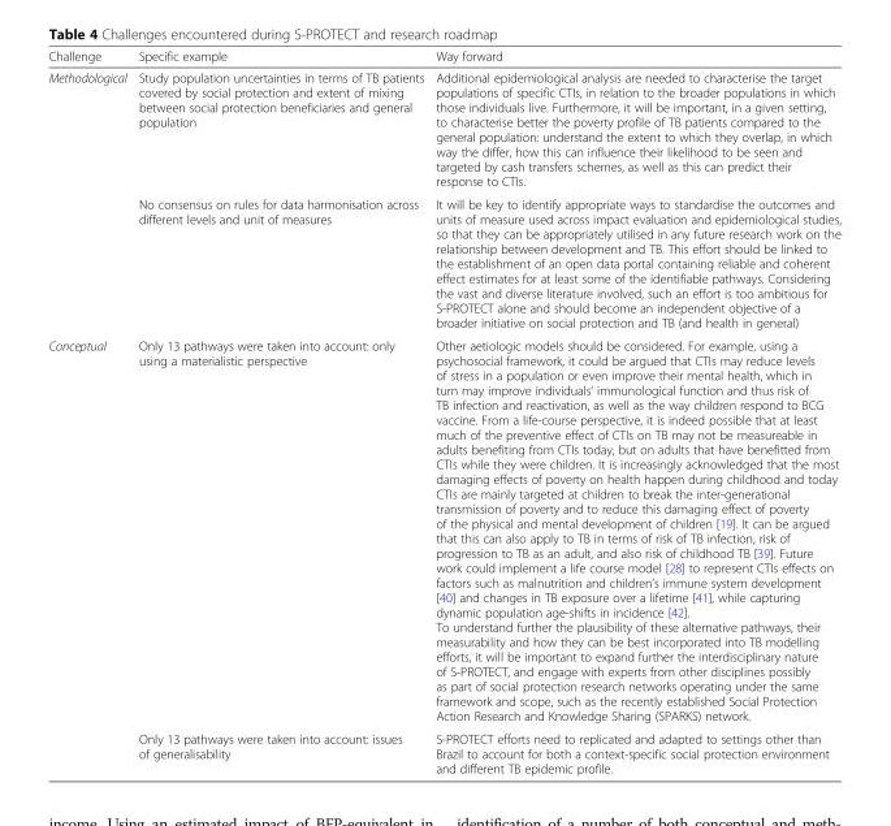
<table><thead><tr><td>Challenge</td><td>Specific example</td><td>Way forward</td></tr></thead><tbody><tr><td rowspan="2">Methodological</td><td>Study population uncertainties in terms of TB patients covered by social protection and extent of mixing between social protection beneficiaries and general population</td><td>Additional epidemiological analysis are needed to characterise the target populations of specific CTIs, in relation to the broader populations in which those individuals live. Furthermore, it will be important, in a given setting, to characterise better the poverty profile of TB patients compared to the general population: understand the extent to which they overlap, in which way the differ, how this can influence their likelihood to be seen and targeted by cash transfers schemes, as well as this can predict their response to CTIs.</td></tr><tr><td>No consensus on rules for data harmonisation across different levels and unit of measures</td><td>It will be key to identify appropriate ways to standardise the outcomes and units of measure used across impact evaluation and epidemiological studies, so that they can be appropriately utilised in any future research work on the relationship between development and TB. This effort should be linked to the establishment of an open data portal containing reliable and coherent effect estimates for at least some of the identifiable pathways. Considering the vast and diverse literature involved, such an effort is too ambitious for S-PROTECT alone and should become an independent objective of a broader initiative on social protection and TB (and health in general)</td></tr><tr><td rowspan="2">Conceptual</td><td>Only 13 pathways were taken into account: only using a materialistic perspective</td><td>Other aetiologic models should be considered. For example, using a psychosocial framework, it could be argued that CTIs may reduce levels of stress in a population or even improve their mental health, which in turn may improve individuals’ immunological function and thus risk of TB infection and reactivation, as well as the way children respond to BCG vaccine. From a life-course perspective, it is indeed possible that at least much of the preventive effect of CTIs on TB may not be measureable in adults benefiting from CTIs today, but on adults that have benefitted from CTIs while they were children. It is increasingly acknowledged that the most damaging effects of poverty on health happen during childhood and today CTIs are mainly targeted at children to break the inter-generational transmission of poverty and to reduce this damaging effect of poverty of the physical and mental development of children [19]. It can be argued that this can also apply to TB in terms of risk of TB infection, risk of progression to TB as an adult, and also risk of childhood TB [39]. Future work could implement a life course model [28] to represent CTIs effects on factors such as malnutrition and children’s immune system development [40] and changes in TB exposure over a lifetime [41], while capturing dynamic population age-shifts in incidence [42]. To understand further the plausibility of these alternative pathways, their measurability and how they can be best incorporated into TB modelling efforts, it will be important to expand further the interdisciplinary nature of S-PROTECT, and engage with experts from other disciplines possibly as part of social protection research networks operating under the same framework and scope, such as the recently established Social Protection Action Research and Knowledge Sharing (SPARKS) network.</td></tr><tr><td>Only 13 pathways were taken into account: issues of generalisability</td><td>S-PROTECT efforts need to replicated and adapted to settings other than Brazil to account for both a context-specific social protection environment and different TB epidemic profile.</td></tr></tbody></table>